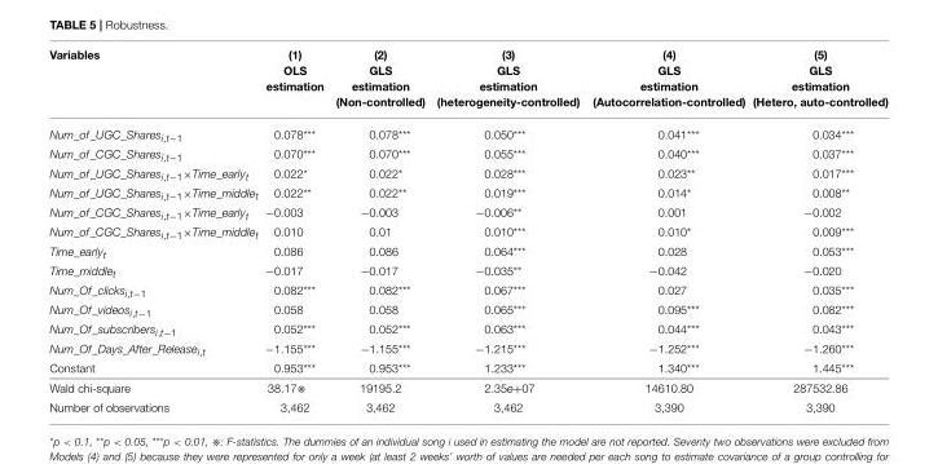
<table><thead><tr><td>Variables</td><td>(1) OLS estimation</td><td>(2) GLS estimation (Non-controlled)</td><td>(3) GLS estimation (heterogeneity-controlled)</td><td>(4) GLS estimation (Autocorrelation-controlled)</td><td>(5) GLS estimation (Hetero, auto-controlled)</td></tr></thead><tbody><tr><td>Num_of_UGC_Shares<sub>i,t−1</sub></td><td>0.078***</td><td>0.078***</td><td>0.050***</td><td>0.041***</td><td>0.034***</td></tr><tr><td>Num_of_CGC_Shares<sub>i,t−1</sub></td><td>0.070***</td><td>0.070***</td><td>0.055***</td><td>0.040***</td><td>0.037***</td></tr><tr><td>Num_of_UGC_Shares<sub>i,t−1</sub>×Time_early<sub>t</sub></td><td>0.022*</td><td>0.022*</td><td>0.028***</td><td>0.023**</td><td>0.017***</td></tr><tr><td>Num_of_UGC_Shares<sub>i,t−1</sub>×Time_middle<sub>t</sub></td><td>0.022**</td><td>0.022**</td><td>0.019***</td><td>0.014*</td><td>0.008**</td></tr><tr><td>Num_of_CGC_Shares<sub>i,t−1</sub>×Time_early<sub>t</sub></td><td>−0.003</td><td>−0.003</td><td>−0.006**</td><td>0.001</td><td>−0.002</td></tr><tr><td>Num_of_CGC_Shares<sub>i,t−1</sub>×Time_middle<sub>t</sub></td><td>0.010</td><td>0.01</td><td>0.010***</td><td>0.010*</td><td>0.009***</td></tr><tr><td>Time_early<sub>t</sub></td><td>0.086</td><td>0.086</td><td>0.064***</td><td>0.028</td><td>0.053***</td></tr><tr><td>Time_middle<sub>t</sub></td><td>−0.017</td><td>−0.017</td><td>−0.035**</td><td>−0.042</td><td>−0.020</td></tr><tr><td>Num_Of_clicks<sub>i,t−1</sub></td><td>0.082***</td><td>0.082***</td><td>0.067***</td><td>0.027</td><td>0.035***</td></tr><tr><td>Num_Of_videos<sub>i,t−1</sub></td><td>0.058</td><td>0.058</td><td>0.065***</td><td>0.095***</td><td>0.082***</td></tr><tr><td>Num_Of_subscribers<sub>i,t−1</sub></td><td>0.052***</td><td>0.052***</td><td>0.063***</td><td>0.044***</td><td>0.043***</td></tr><tr><td>Num_Of_Days_After_Release<sub>i,t</sub></td><td>−1.155***</td><td>−1.155***</td><td>−1.215***</td><td>−1.252***</td><td>−1.260***</td></tr><tr><td>Constant</td><td>0.953***</td><td>0.953***</td><td>1.233***</td><td>1.340***</td><td>1.445***</td></tr><tr><td>Wald chi-square</td><td>38.17※</td><td>19195.2</td><td>2.35e+07</td><td>14610.80</td><td>287532.86</td></tr><tr><td>Number of observations</td><td>3,462</td><td>3,462</td><td>3,462</td><td>3,390</td><td>3,390</td></tr></tbody></table>